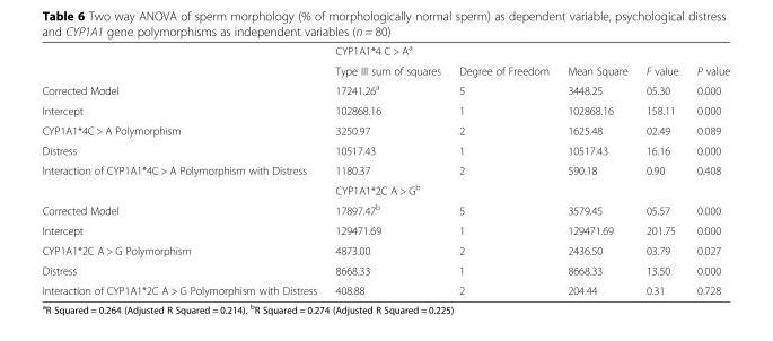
<table><thead><tr><td rowspan="2"></td><td colspan="5">CYP1A1*4 C &gt; A<sup>a</sup></td></tr><tr><td>Type III sum of squares</td><td>Degree of Freedom</td><td>Mean Square</td><td>F value</td><td>P value</td></tr></thead><tbody><tr><td>Corrected Model</td><td>17241.26<sup>a</sup></td><td>5</td><td>3448.25</td><td>05.30</td><td>0.000</td></tr><tr><td>Intercept</td><td>102868.16</td><td>1</td><td>102868.16</td><td>158.11</td><td>0.000</td></tr><tr><td>CYP1A1*4C &gt; A Polymorphism</td><td>3250.97</td><td>2</td><td>1625.48</td><td>02.49</td><td>0.089</td></tr><tr><td>Distress</td><td>10517.43</td><td>1</td><td>10517.43</td><td>16.16</td><td>0.000</td></tr><tr><td rowspan="2">Interaction of CYP1A1*4C &gt; A Polymorphism with Distress</td><td>1180.37</td><td>2</td><td>590.18</td><td>0.90</td><td>0.408</td></tr><tr><td colspan="5">CYP1A1*2C A &gt; G<sup>b</sup></td></tr><tr><td>Corrected Model</td><td>17897.47<sup>b</sup></td><td>5</td><td>3579.45</td><td>05.57</td><td>0.000</td></tr><tr><td>Intercept</td><td>129471.69</td><td>1</td><td>129471.69</td><td>201.75</td><td>0.000</td></tr><tr><td>CYP1A1*2C A &gt; G Polymorphism</td><td>4873.00</td><td>2</td><td>2436.50</td><td>03.79</td><td>0.027</td></tr><tr><td>Distress</td><td>8668.33</td><td>1</td><td>8668.33</td><td>13.50</td><td>0.000</td></tr><tr><td>Interaction of CYP1A1*2C A &gt; G Polymorphism with Distress</td><td>408.88</td><td>2</td><td>204.44</td><td>0.31</td><td>0.728</td></tr></tbody></table>